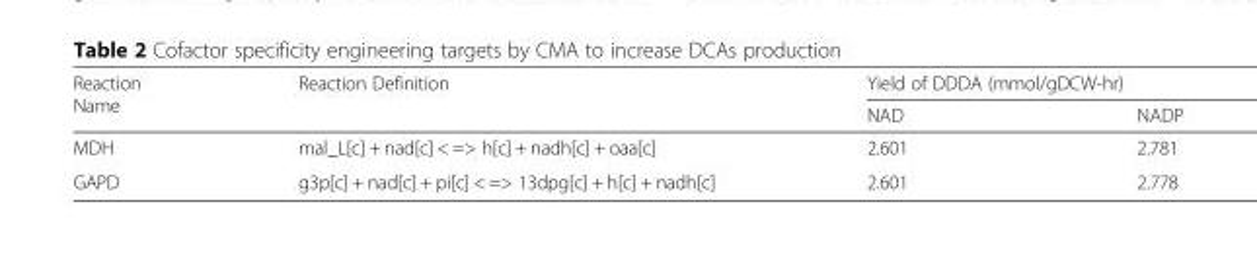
<table><thead><tr><td rowspan="2">Reaction Name</td><td rowspan="2">Reaction Definition</td><td colspan="2">Yield of DDDA (mmol/gDCW-hr)</td></tr><tr><td>NAD</td><td>NADP</td></tr></thead><tbody><tr><td>MDH</td><td>mal_L[c] + nad[c] &lt; =&gt; h[c] + nadh[c] + oaa[c]</td><td>2.601</td><td>2.781</td></tr><tr><td>GAPD</td><td>g3p[c] + nad[c] + pi[c] &lt; =&gt; 13dpg[c] + h[c] + nadh[c]</td><td>2.601</td><td>2.778</td></tr></tbody></table>